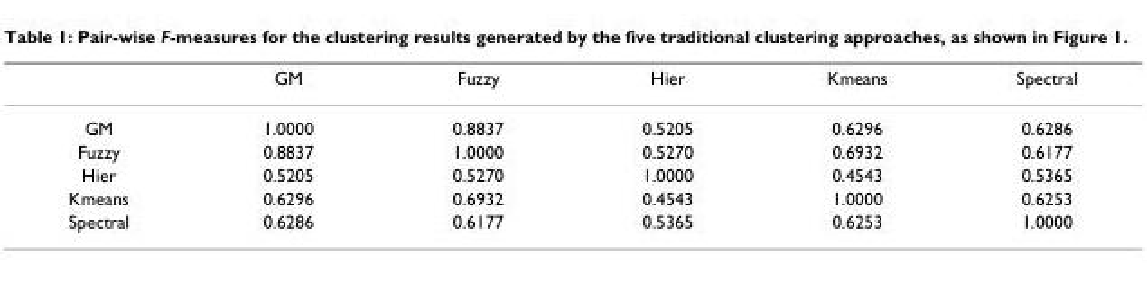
<table><thead><tr><td></td><td>GM</td><td>Fuzzy</td><td>Hier</td><td>Kmeans</td><td>Spectral</td></tr></thead><tbody><tr><td>GM</td><td>1.0000</td><td>0.8837</td><td>0.5205</td><td>0.6296</td><td>0.6286</td></tr><tr><td>Fuzzy</td><td>0.8837</td><td>1.0000</td><td>0.5270</td><td>0.6932</td><td>0.6177</td></tr><tr><td>Hier</td><td>0.5205</td><td>0.5270</td><td>1.0000</td><td>0.4543</td><td>0.5365</td></tr><tr><td>Kmeans</td><td>0.6296</td><td>0.6932</td><td>0.4543</td><td>1.0000</td><td>0.6253</td></tr><tr><td>Spectral</td><td>0.6286</td><td>0.6177</td><td>0.5365</td><td>0.6253</td><td>1.0000</td></tr></tbody></table>